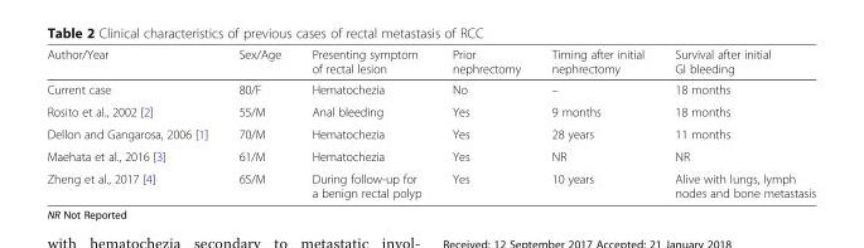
<table><thead><tr><td>Author/Year</td><td>Sex/Age</td><td>Presenting symptom of rectal lesion</td><td>Prior nephrectomy</td><td>Timing after initial nephrectomy</td><td>Survival after initial GI bleeding</td></tr></thead><tbody><tr><td>Current case</td><td>80/F</td><td>Hematochezia</td><td>No</td><td>–</td><td>18 months</td></tr><tr><td>Rosito et al., 2002 [2]</td><td>55/M</td><td>Anal bleeding</td><td>Yes</td><td>9 months</td><td>18 months</td></tr><tr><td>Dellon and Gangarosa, 2006 [1]</td><td>70/M</td><td>Hematochezia</td><td>Yes</td><td>28 years</td><td>11 months</td></tr><tr><td>Maehata et al., 2016 [3]</td><td>61/M</td><td>Hematochezia</td><td>Yes</td><td>NR</td><td>NR</td></tr><tr><td>Zheng et al., 2017 [4]</td><td>65/M</td><td>During follow-up for a benign rectal polyp</td><td>Yes</td><td>10 years</td><td>Alive with lungs, lymph nodes and bone metastasis</td></tr></tbody></table>